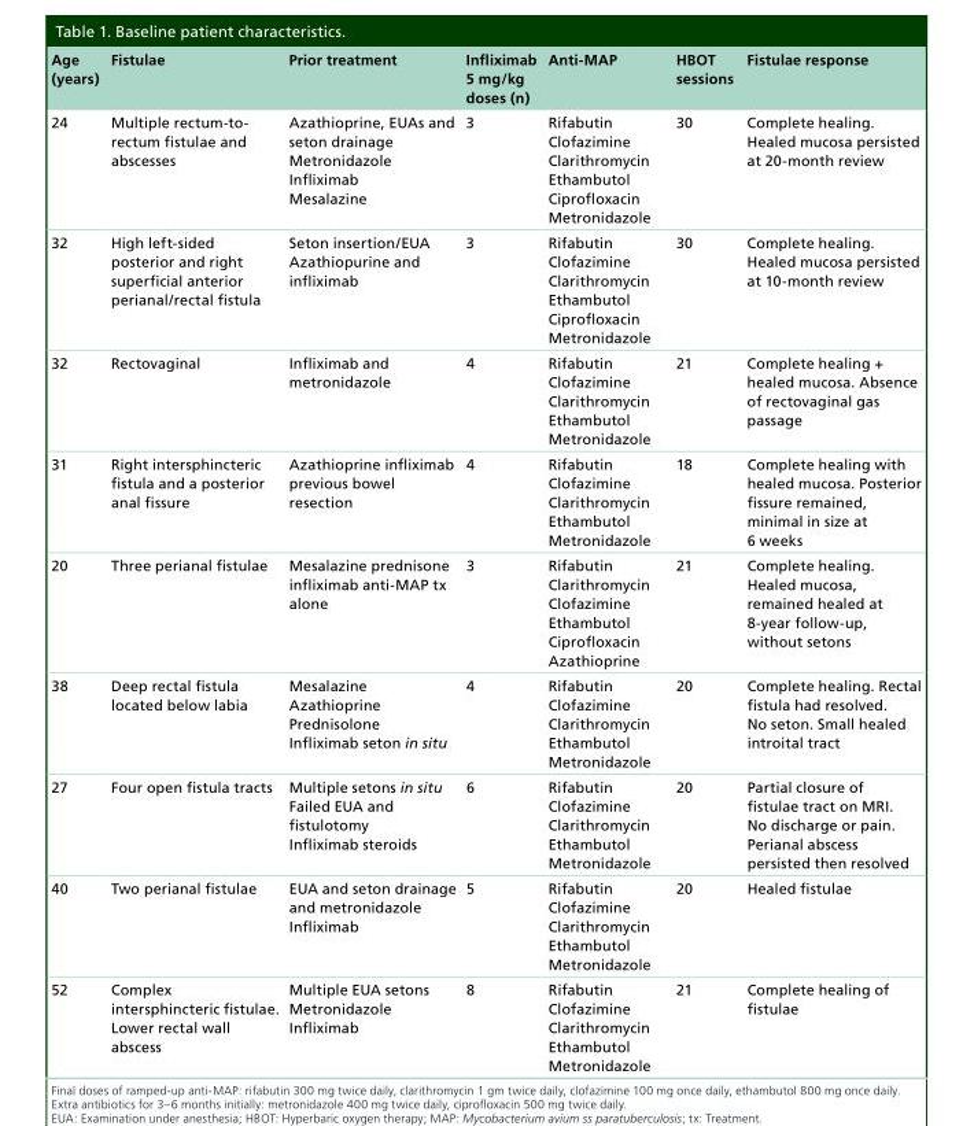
<table><thead><tr><td>Age (years)</td><td>Fistulae</td><td>Prior treatment</td><td>Infliximab 5 mg/kg doses (n)</td><td>Anti-MAP</td><td>HBOT sessions</td><td>Fistulae response</td></tr></thead><tbody><tr><td>24</td><td>Multiple rectum-to- rectum fistulae and abscesses</td><td>Azathioprine, EUAs and seton drainage Metronidazole Infliximab Mesalazine</td><td>3</td><td>Rifabutin Clofazimine Clarithromycin Ethambutol Ciprofloxacin Metronidazole</td><td>30</td><td>Complete healing. Healed mucosa persisted at 20-month review</td></tr><tr><td>32</td><td>High left-sided posterior and right superficial anterior perianal/rectal fistula</td><td>Seton insertion/EUA Azathiopurine and infliximab</td><td>3</td><td>Rifabutin Clofazimine Clarithromycin Ethambutol Ciprofloxacin Metronidazole</td><td>30</td><td>Complete healing. Healed mucosa persisted at 10-month review</td></tr><tr><td>32</td><td>Rectovaginal</td><td>Infliximab and metronidazole</td><td>4</td><td>Rifabutin Clofazimine Clarithromycin Ethambutol Metronidazole</td><td>21</td><td>Complete healing + healed mucosa. Absence of rectovaginal gas passage</td></tr><tr><td>31</td><td>Right intersphincteric fistula and a posterior anal fissure</td><td>Azathioprine infliximab previous bowel resection</td><td>4</td><td>Rifabutin Clofazimine Clarithromycin Ethambutol Metronidazole</td><td>18</td><td>Complete healing with healed mucosa. Posterior fissure remained, minimal in size at 6 weeks</td></tr><tr><td>20</td><td>Three perianal fistulae</td><td>Mesalazine prednisone infliximab anti-MAP tx alone</td><td>3</td><td>Rifabutin Clarithromycin Clofazimine Ethambutol Ciprofloxacin Azathioprine</td><td>21</td><td>Complete healing. Healed mucosa, remained healed at 8-year follow-up, without setons</td></tr><tr><td>38</td><td>Deep rectal fistula located below labia</td><td>Mesalazine Azathioprine Prednisolone Infliximab seton in situ</td><td>4</td><td>Rifabutin Clofazimine Clarithromycin Ethambutol Metronidazole</td><td>20</td><td>Complete healing. Rectal fistula had resolved. No seton. Small healed introital tract</td></tr><tr><td>27</td><td>Four open fistula tracts</td><td>Multiple setons in situ Failed EUA and fistulotomy Infliximab steroids</td><td>6</td><td>Rifabutin Clofazimine Clarithromycin Ethambutol Metronidazole</td><td>20</td><td>Partial closure of fistulae tract on MRI. No discharge or pain. Perianal abscess persisted then resolved</td></tr><tr><td>40</td><td>Two perianal fistulae</td><td>EUA and seton drainage and metronidazole Infliximab</td><td>5</td><td>Rifabutin Clofazimine Clarithromycin Ethambutol Metronidazole</td><td>20</td><td>Healed fistulae</td></tr><tr><td>52</td><td>Complex intersphincteric fistulae. Lower rectal wall abscess</td><td>Multiple EUA setons Metronidazole Infliximab</td><td>8</td><td>Rifabutin Clofazimine Clarithromycin Ethambutol Metronidazole</td><td>21</td><td>Complete healing of fistulae</td></tr></tbody></table>